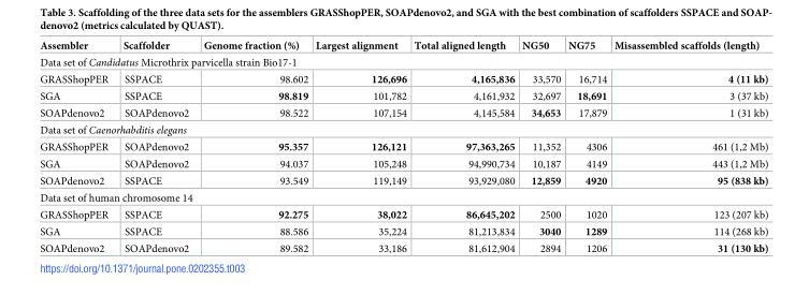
<table><thead><tr><td>Assembler</td><td>Scaffolder</td><td>Genome fraction (%)</td><td>Largest alignment</td><td>Total aligned length</td><td>NG50</td><td>NG75</td><td>Misassembled scaffolds (length)</td></tr></thead><tbody><tr><td colspan="8">Data set of Candidatus Microthrix parvicella strain Bio17-1</td></tr><tr><td>GRASShopPER</td><td>SSPACE</td><td>98.602</td><td>126,696</td><td>4,165,836</td><td>33,570</td><td>16,714</td><td>4 (11 kb)</td></tr><tr><td>SGA</td><td>SSPACE</td><td>98.819</td><td>101,782</td><td>4,161,932</td><td>32,697</td><td>18,691</td><td>3 (37 kb)</td></tr><tr><td>SOAPdenovo2</td><td>SOAPdenovo2</td><td>98.522</td><td>107,154</td><td>4,145,584</td><td>34,653</td><td>17,879</td><td>1 (31 kb)</td></tr><tr><td colspan="8">Data set of Caenorhabditis elegans</td></tr><tr><td>GRASShopPER</td><td>SOAPdenovo2</td><td>95.357</td><td>126,121</td><td>97,363,265</td><td>11,352</td><td>4306</td><td>461 (1,2 Mb)</td></tr><tr><td>SGA</td><td>SOAPdenovo2</td><td>94.037</td><td>105,248</td><td>94,990,734</td><td>10,187</td><td>4149</td><td>443 (1,2 Mb)</td></tr><tr><td>SOAPdenovo2</td><td>SSPACE</td><td>93.549</td><td>119,149</td><td>93,929,080</td><td>12,859</td><td>4920</td><td>95 (838 kb)</td></tr><tr><td colspan="8">Data set of human chromosome 14</td></tr><tr><td>GRASShopPER</td><td>SSPACE</td><td>92.275</td><td>38,022</td><td>86,645,202</td><td>2500</td><td>1020</td><td>123 (207 kb)</td></tr><tr><td>SGA</td><td>SSPACE</td><td>88.586</td><td>35,224</td><td>81,213,834</td><td>3040</td><td>1289</td><td>114 (268 kb)</td></tr><tr><td>SOAPdenovo2</td><td>SOAPdenovo2</td><td>89.582</td><td>33,186</td><td>81,612,904</td><td>2894</td><td>1206</td><td>31 (130 kb)</td></tr></tbody></table>